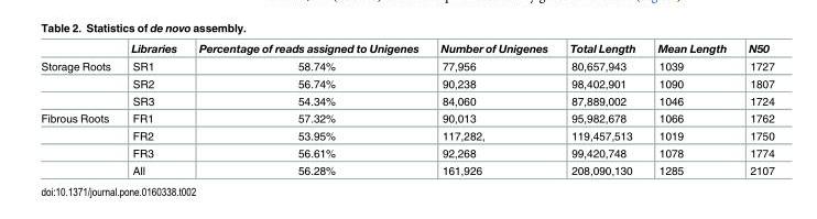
<table><thead><tr><td></td><td>Libraries</td><td>Percentage of reads assigned to Unigenes</td><td>Number of Unigenes</td><td>Total Length</td><td>Mean Length</td><td>N50</td></tr></thead><tbody><tr><td rowspan="3">Storage Roots</td><td>SR1</td><td>58.74%</td><td>77,956</td><td>80,657,943</td><td>1039</td><td>1727</td></tr><tr><td>SR2</td><td>56.74%</td><td>90,238</td><td>98,402,901</td><td>1090</td><td>1807</td></tr><tr><td>SR3</td><td>54.34%</td><td>84,060</td><td>87,889,002</td><td>1046</td><td>1724</td></tr><tr><td rowspan="4">Fibrous Roots</td><td>FR1</td><td>57.32%</td><td>90,013</td><td>95,982,678</td><td>1066</td><td>1762</td></tr><tr><td>FR2</td><td>53.95%</td><td>117,282,</td><td>119,457,513</td><td>1019</td><td>1750</td></tr><tr><td>FR3</td><td>56.61%</td><td>92,268</td><td>99,420,748</td><td>1078</td><td>1774</td></tr><tr><td>All</td><td>56.28%</td><td>161,926</td><td>208,090,130</td><td>1285</td><td>2107</td></tr></tbody></table>